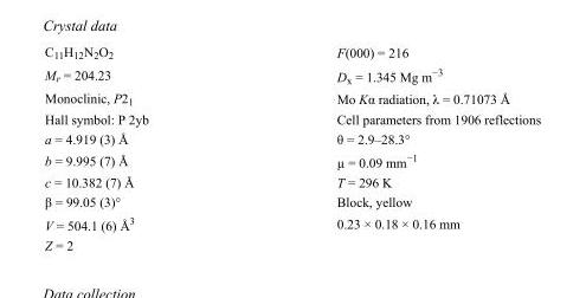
<table><tbody><tr><td>C<sub>11</sub>H<sub>12</sub>N<sub>2</sub>O<sub>2</sub></td><td>F(000) = 216</td></tr><tr><td>M<sub>r</sub> = 204.23</td><td>D<sub>x</sub> = 1.345 Mg m<sup>−3</sup></td></tr><tr><td>Monoclinic, P2<sub>1</sub></td><td>Mo Kα radiation, λ = 0.71073 Å</td></tr><tr><td>Hall symbol: P 2yb</td><td>Cell parameters from 1906 reflections</td></tr><tr><td>a = 4.919 (3) Å</td><td>θ = 2.9–28.3°</td></tr><tr><td>b = 9.995 (7) Å</td><td>µ = 0.09 mm<sup>−1</sup></td></tr><tr><td>c = 10.382 (7) Å</td><td>T = 296 K</td></tr><tr><td>β = 99.05 (3)°</td><td>Block, yellow</td></tr><tr><td>V = 504.1 (6) Å<sup>3</sup></td><td>0.23 × 0.18 × 0.16 mm</td></tr><tr><td>Z = 2</td><td></td></tr></tbody></table>